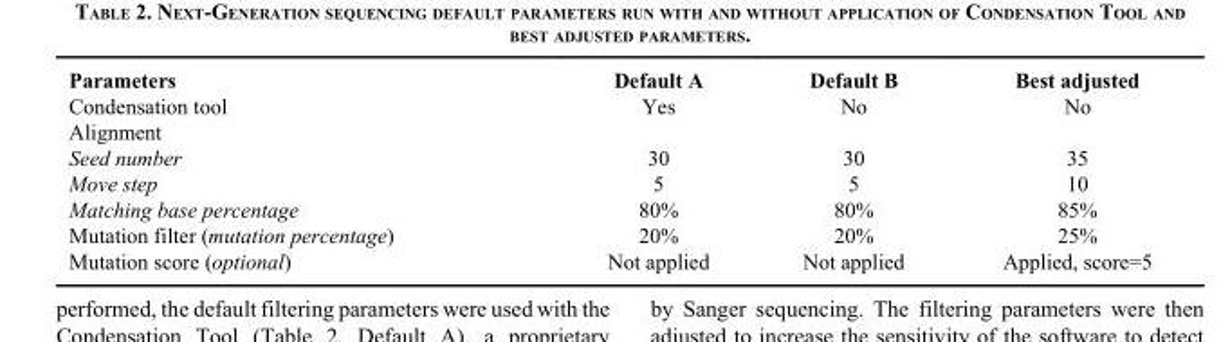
<table><thead><tr><td>Parameters</td><td>Default A</td><td>Default B</td><td>Best adjusted</td></tr></thead><tbody><tr><td>Condensation tool</td><td>Yes</td><td>No</td><td>No</td></tr><tr><td colspan="4">Alignment</td></tr><tr><td>Seed number</td><td>30</td><td>30</td><td>35</td></tr><tr><td>Move step</td><td>5</td><td>5</td><td>10</td></tr><tr><td>Matching base percentage</td><td>80%</td><td>80%</td><td>85%</td></tr><tr><td>Mutation filter (mutation percentage)</td><td>20%</td><td>20%</td><td>25%</td></tr><tr><td>Mutation score (optional)</td><td>Not applied</td><td>Not applied</td><td>Applied, score=5</td></tr></tbody></table>